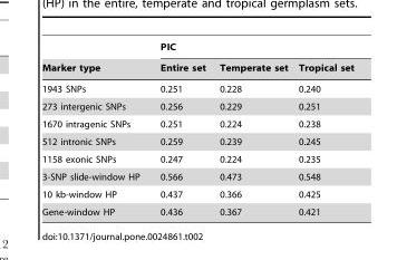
<table><thead><tr><td rowspan="2">Marker type</td><td colspan="3">PIC</td></tr><tr><td>Entire set</td><td>Temperate set</td><td>Tropical set</td></tr></thead><tbody><tr><td>1943 SNPs</td><td>0.251</td><td>0.228</td><td>0.240</td></tr><tr><td>273 intergenic SNPs</td><td>0.256</td><td>0.229</td><td>0.251</td></tr><tr><td>1670 intragenic SNPs</td><td>0.251</td><td>0.224</td><td>0.238</td></tr><tr><td>512 intronic SNPs</td><td>0.259</td><td>0.239</td><td>0.245</td></tr><tr><td>1158 exonic SNPs</td><td>0.247</td><td>0.224</td><td>0.235</td></tr><tr><td>3-SNP slide-window HP</td><td>0.566</td><td>0.473</td><td>0.548</td></tr><tr><td>10 kb-window HP</td><td>0.437</td><td>0.366</td><td>0.425</td></tr><tr><td>Gene-window HP</td><td>0.436</td><td>0.367</td><td>0.421</td></tr></tbody></table>